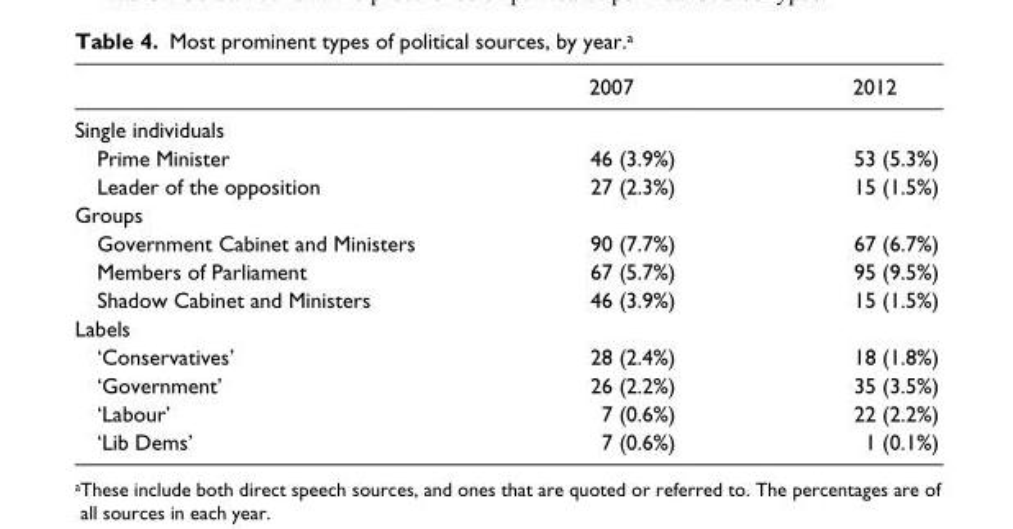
<table><thead><tr><td></td><td>2007</td><td>2012</td></tr></thead><tbody><tr><td colspan="3">Single individuals</td></tr><tr><td>Prime Minister</td><td>46 (3.9%)</td><td>53 (5.3%)</td></tr><tr><td>Leader of the opposition</td><td>27 (2.3%)</td><td>15 (1.5%)</td></tr><tr><td colspan="3">Groups</td></tr><tr><td>Government Cabinet and Ministers</td><td>90 (7.7%)</td><td>67 (6.7%)</td></tr><tr><td>Members of Parliament</td><td>67 (5.7%)</td><td>95 (9.5%)</td></tr><tr><td>Shadow Cabinet and Ministers</td><td>46 (3.9%)</td><td>15 (1.5%)</td></tr><tr><td colspan="3">Labels</td></tr><tr><td>‘Conservatives’</td><td>28 (2.4%)</td><td>18 (1.8%)</td></tr><tr><td>‘Government’</td><td>26 (2.2%)</td><td>35 (3.5%)</td></tr><tr><td>‘Labour’</td><td>7 (0.6%)</td><td>22 (2.2%)</td></tr><tr><td>‘Lib Dems’</td><td>7 (0.6%)</td><td>1 (0.1%)</td></tr></tbody></table>